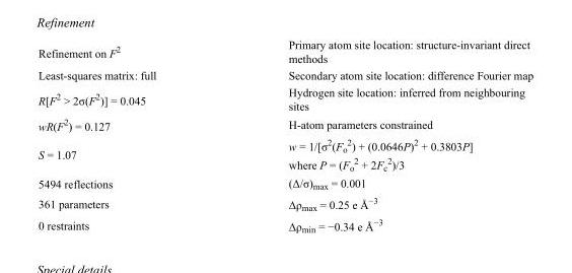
<table><tbody><tr><td>Refinement on F<sup>2</sup></td><td>Primary atom site location: structure-invariant direct methods</td></tr><tr><td>Least-squares matrix: full</td><td>Secondary atom site location: difference Fourier map</td></tr><tr><td>R[F<sup>2</sup> &gt; 2σ(F<sup>2</sup>)] = 0.045</td><td>Hydrogen site location: inferred from neighbouring sites</td></tr><tr><td>wR(F<sup>2</sup>) = 0.127</td><td>H-atom parameters constrained</td></tr><tr><td>S = 1.07</td><td>w = 1/[σ<sup>2</sup>(F<sub>o</sub> <sup>2</sup>) + (0.0646P)<sup>2</sup> + 0.3803P] where P = (F<sub>o</sub> <sup>2</sup> + 2F<sub>c</sub> <sup>2</sup>)/3</td></tr><tr><td>5494 reflections</td><td>(Δ/σ)<sub>max</sub> = 0.001</td></tr><tr><td>361 parameters</td><td>Δρ<sub>max</sub> = 0.25 e Å<sup>−3</sup></td></tr><tr><td>0 restraints</td><td>Δρ<sub>min</sub> = −0.34 e Å<sup>−3</sup></td></tr></tbody></table>